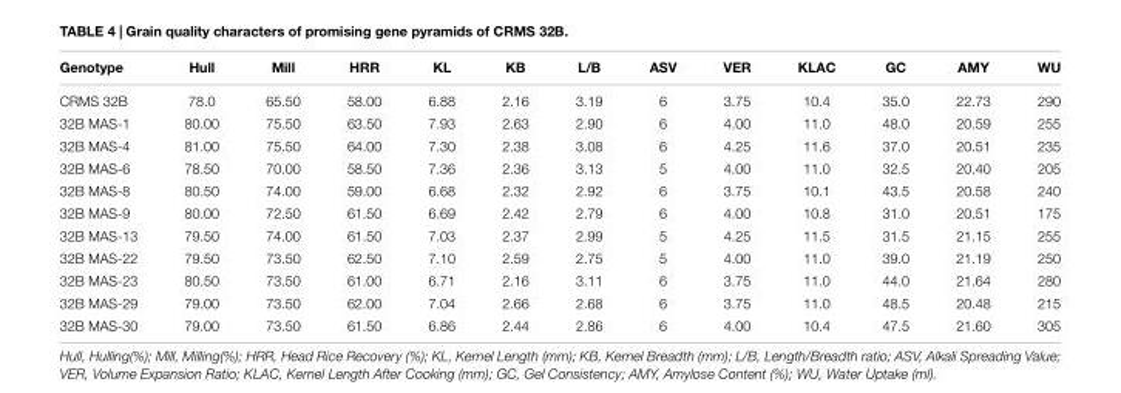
<table><thead><tr><td>Genotype</td><td>Hull</td><td>Mill</td><td>HRR</td><td>KL</td><td>KB</td><td>L/B</td><td>ASV</td><td>VER</td><td>KLAC</td><td>GC</td><td>AMY</td><td>WU</td></tr></thead><tbody><tr><td>CRMS 32B</td><td>78.0</td><td>65.50</td><td>58.00</td><td>6.88</td><td>2.16</td><td>3.19</td><td>6</td><td>3.75</td><td>10.4</td><td>35.0</td><td>22.73</td><td>290</td></tr><tr><td>32B MAS-1</td><td>80.00</td><td>75.50</td><td>63.50</td><td>7.93</td><td>2.63</td><td>2.90</td><td>6</td><td>4.00</td><td>11.0</td><td>48.0</td><td>20.59</td><td>255</td></tr><tr><td>32B MAS-4</td><td>81.00</td><td>75.50</td><td>64.00</td><td>7.30</td><td>2.38</td><td>3.08</td><td>6</td><td>4.25</td><td>11.6</td><td>37.0</td><td>20.51</td><td>235</td></tr><tr><td>32B MAS-6</td><td>78.50</td><td>70.00</td><td>58.50</td><td>7.36</td><td>2.36</td><td>3.13</td><td>5</td><td>4.00</td><td>11.0</td><td>32.5</td><td>20.40</td><td>205</td></tr><tr><td>32B MAS-8</td><td>80.50</td><td>74.00</td><td>59.00</td><td>6.68</td><td>2.32</td><td>2.92</td><td>6</td><td>3.75</td><td>10.1</td><td>43.5</td><td>20.58</td><td>240</td></tr><tr><td>32B MAS-9</td><td>80.00</td><td>72.50</td><td>61.50</td><td>6.69</td><td>2.42</td><td>2.79</td><td>6</td><td>4.00</td><td>10.8</td><td>31.0</td><td>20.51</td><td>175</td></tr><tr><td>32B MAS-13</td><td>79.50</td><td>74.00</td><td>61.50</td><td>7.03</td><td>2.37</td><td>2.99</td><td>5</td><td>4.25</td><td>11.5</td><td>31.5</td><td>21.15</td><td>255</td></tr><tr><td>32B MAS-22</td><td>79.50</td><td>73.50</td><td>62.50</td><td>7.10</td><td>2.59</td><td>2.75</td><td>5</td><td>4.00</td><td>11.0</td><td>39.0</td><td>21.19</td><td>250</td></tr><tr><td>32B MAS-23</td><td>80.50</td><td>73.50</td><td>61.00</td><td>6.71</td><td>2.16</td><td>3.11</td><td>6</td><td>3.75</td><td>11.0</td><td>44.0</td><td>21.64</td><td>280</td></tr><tr><td>32B MAS-29</td><td>79.00</td><td>73.50</td><td>62.00</td><td>7.04</td><td>2.66</td><td>2.68</td><td>6</td><td>3.75</td><td>11.0</td><td>48.5</td><td>20.48</td><td>215</td></tr><tr><td>32B MAS-30</td><td>79.00</td><td>73.50</td><td>61.50</td><td>6.86</td><td>2.44</td><td>2.86</td><td>6</td><td>4.00</td><td>10.4</td><td>47.5</td><td>21.60</td><td>305</td></tr></tbody></table>